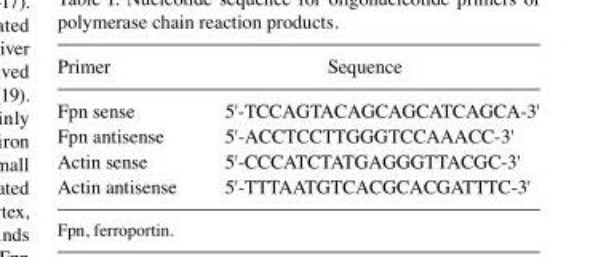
<table><thead><tr><td>Primer</td><td>Sequence</td></tr></thead><tbody><tr><td>Fpn sense</td><td>5&#x27;-TCCAGTACAGCAGCATCAGCA-3&#x27;</td></tr><tr><td>Fpn antisense</td><td>5&#x27;-ACCTCCTTGGGTCCAAACC-3&#x27;</td></tr><tr><td>Actin sense</td><td>5&#x27;-CCCATCTATGAGGGTTACGC-3&#x27;</td></tr><tr><td>Actin antisense</td><td>5&#x27;-TTTAATGTCACGCACGATTTC-3&#x27;</td></tr></tbody></table>